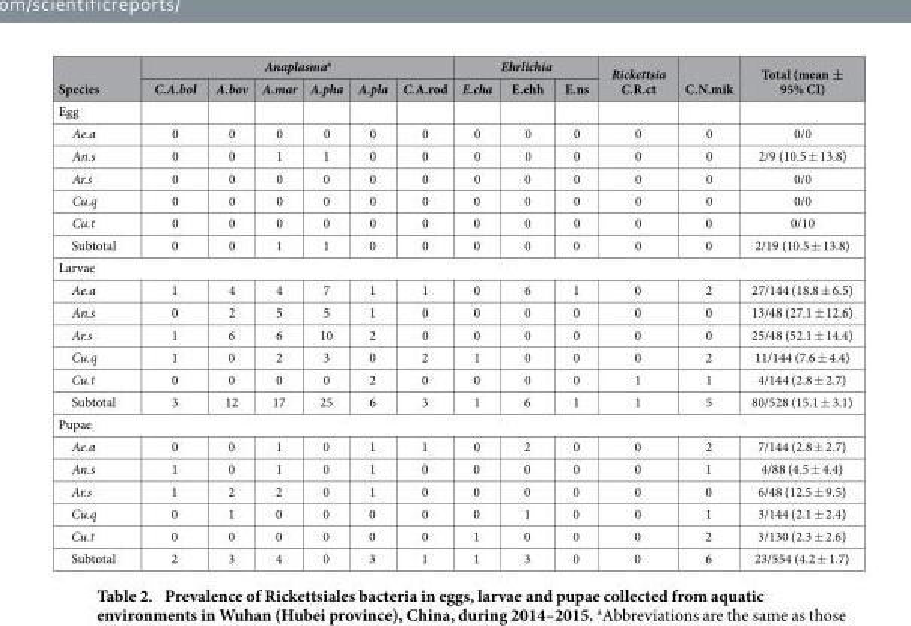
<table><thead><tr><td rowspan="2">Species</td><td colspan="6">Anaplasma<sup>a</sup></td><td colspan="3">Ehrlichia</td><td rowspan="2">Rickettsia C.R.ct</td><td rowspan="2">C.N.mik</td><td rowspan="2">Total (mean ± 95% CI)</td></tr><tr><td>C.A.bol</td><td>A.bov</td><td>A.mar</td><td>A.pha</td><td>A.pla</td><td>C.A.rod</td><td>E.cha</td><td>E.ehh</td><td>E.ns</td></tr></thead><tbody><tr><td colspan="13">Egg</td></tr><tr><td>Ae.a</td><td>0</td><td>0</td><td>0</td><td>0</td><td>0</td><td>0</td><td>0</td><td>0</td><td>0</td><td>0</td><td>0</td><td>0/0</td></tr><tr><td>An.s</td><td>0</td><td>0</td><td>1</td><td>1</td><td>0</td><td>0</td><td>0</td><td>0</td><td>0</td><td>0</td><td>0</td><td>2/9 (10.5 ± 13.8)</td></tr><tr><td>Ar.s</td><td>0</td><td>0</td><td>0</td><td>0</td><td>0</td><td>0</td><td>0</td><td>0</td><td>0</td><td>0</td><td>0</td><td>0/0</td></tr><tr><td>Cu.q</td><td>0</td><td>0</td><td>0</td><td>0</td><td>0</td><td>0</td><td>0</td><td>0</td><td>0</td><td>0</td><td>0</td><td>0/0</td></tr><tr><td>Cu.t</td><td>0</td><td>0</td><td>0</td><td>0</td><td>0</td><td>0</td><td>0</td><td>0</td><td>0</td><td>0</td><td>0</td><td>0/10</td></tr><tr><td>Subtotal</td><td>0</td><td>0</td><td>1</td><td>1</td><td>0</td><td>0</td><td>0</td><td>0</td><td>0</td><td>0</td><td>0</td><td>2/19 (10.5 ± 13.8)</td></tr><tr><td colspan="13">Larvae</td></tr><tr><td>Ae.a</td><td>1</td><td>4</td><td>4</td><td>7</td><td>1</td><td>1</td><td>0</td><td>6</td><td>1</td><td>0</td><td>2</td><td>27/144 (18.8 ± 6.5)</td></tr><tr><td>An.s</td><td>0</td><td>2</td><td>5</td><td>5</td><td>1</td><td>0</td><td>0</td><td>0</td><td>0</td><td>0</td><td>0</td><td>13/48 (27.1 ± 12.6)</td></tr><tr><td>Ar.s</td><td>1</td><td>6</td><td>6</td><td>10</td><td>2</td><td>0</td><td>0</td><td>0</td><td>0</td><td>0</td><td>0</td><td>25/48 (52.1 ± 14.4)</td></tr><tr><td>Cu.q</td><td>1</td><td>0</td><td>2</td><td>3</td><td>0</td><td>2</td><td>1</td><td>0</td><td>0</td><td>0</td><td>2</td><td>11/144 (7.6 ± 4.4)</td></tr><tr><td>Cu.t</td><td>0</td><td>0</td><td>0</td><td>0</td><td>2</td><td>0</td><td>0</td><td>0</td><td>0</td><td>1</td><td>1</td><td>4/144 (2.8 ± 2.7)</td></tr><tr><td>Subtotal</td><td>3</td><td>12</td><td>17</td><td>25</td><td>6</td><td>3</td><td>1</td><td>6</td><td>1</td><td>1</td><td>5</td><td>80/528 (15.1 ± 3.1)</td></tr><tr><td colspan="13">Pupae</td></tr><tr><td>Ae.a</td><td>0</td><td>0</td><td>1</td><td>0</td><td>1</td><td>1</td><td>0</td><td>2</td><td>0</td><td>0</td><td>2</td><td>7/144 (2.8 ± 2.7)</td></tr><tr><td>An.s</td><td>1</td><td>0</td><td>1</td><td>0</td><td>1</td><td>0</td><td>0</td><td>0</td><td>0</td><td>0</td><td>1</td><td>4/88 (4.5 ± 4.4)</td></tr><tr><td>Ar.s</td><td>1</td><td>2</td><td>2</td><td>0</td><td>1</td><td>0</td><td>0</td><td>0</td><td>0</td><td>0</td><td>0</td><td>6/48 (12.5 ± 9.5)</td></tr><tr><td>Cu.q</td><td>0</td><td>1</td><td>0</td><td>0</td><td>0</td><td>0</td><td>0</td><td>1</td><td>0</td><td>0</td><td>1</td><td>3/144 (2.1 ± 2.4)</td></tr><tr><td>Cu.t</td><td>0</td><td>0</td><td>0</td><td>0</td><td>0</td><td>0</td><td>1</td><td>0</td><td>0</td><td>0</td><td>2</td><td>3/130 (2.3 ± 2.6)</td></tr><tr><td>Subtotal</td><td>2</td><td>3</td><td>4</td><td>0</td><td>3</td><td>1</td><td>1</td><td>3</td><td>0</td><td>0</td><td>6</td><td>23/554 (4.2 ± 1.7)</td></tr></tbody></table>